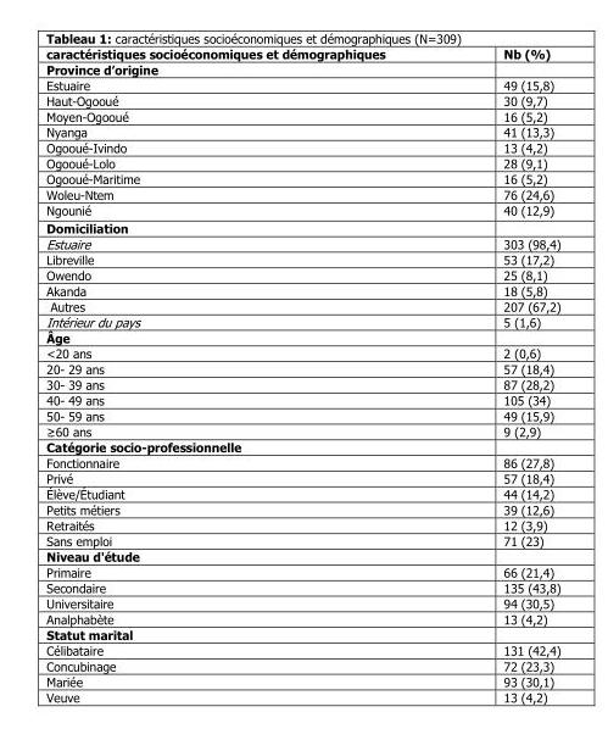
<table><thead><tr><td>caractéristiques socioéconomiques et démographiques</td><td>Nb (%)</td></tr></thead><tbody><tr><td colspan="2">Province d’origine</td></tr><tr><td>Estuaire</td><td>49 (15,8)</td></tr><tr><td>Haut-Ogooué</td><td>30 (9,7)</td></tr><tr><td>Moyen-Ogooué</td><td>16 (5,2)</td></tr><tr><td>Nyanga</td><td>41 (13,3)</td></tr><tr><td>Ogooué-Ivindo</td><td>13 (4,2)</td></tr><tr><td>Ogooué-Lolo</td><td>28 (9,1)</td></tr><tr><td>Ogooué-Maritime</td><td>16 (5,2)</td></tr><tr><td>Woleu-Ntem</td><td>76 (24,6)</td></tr><tr><td>Ngounié</td><td>40 (12,9)</td></tr><tr><td colspan="2">Domiciliation</td></tr><tr><td>Estuaire</td><td>303 (98,4)</td></tr><tr><td>Libreville</td><td>53 (17,2)</td></tr><tr><td>Owendo</td><td>25 (8,1)</td></tr><tr><td>Akanda</td><td>18 (5,8)</td></tr><tr><td>Autres</td><td>207 (67,2)</td></tr><tr><td>Intérieur du pays</td><td>5 (1,6)</td></tr><tr><td colspan="2">Âge</td></tr><tr><td>&lt;20 ans</td><td>2 (0,6)</td></tr><tr><td>20- 29 ans</td><td>57 (18,4)</td></tr><tr><td>30- 39 ans</td><td>87 (28,2)</td></tr><tr><td>40- 49 ans</td><td>105 (34)</td></tr><tr><td>50- 59 ans</td><td>49 (15,9)</td></tr><tr><td>≥60 ans</td><td>9 (2,9)</td></tr><tr><td colspan="2">Catégorie socio-professionnelle</td></tr><tr><td>Fonctionnaire</td><td>86 (27,8)</td></tr><tr><td>Privé</td><td>57 (18,4)</td></tr><tr><td>Élève/Étudiant</td><td>44 (14,2)</td></tr><tr><td>Petits métiers</td><td>39 (12,6)</td></tr><tr><td>Retraités</td><td>12 (3,9)</td></tr><tr><td>Sans emploi</td><td>71 (23)</td></tr><tr><td colspan="2">Niveau d&#x27;étude</td></tr><tr><td>Primaire</td><td>66 (21,4)</td></tr><tr><td>Secondaire</td><td>135 (43,8)</td></tr><tr><td>Universitaire</td><td>94 (30,5)</td></tr><tr><td>Analphabète</td><td>13 (4,2)</td></tr><tr><td colspan="2">Statut marital</td></tr><tr><td>Célibataire</td><td>131 (42,4)</td></tr><tr><td>Concubinage</td><td>72 (23,3)</td></tr><tr><td>Mariée</td><td>93 (30,1)</td></tr><tr><td>Veuve</td><td>13 (4,2)</td></tr></tbody></table>